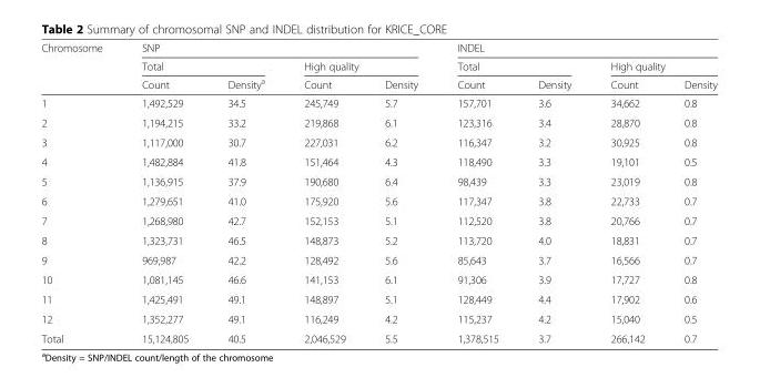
<table><thead><tr><td rowspan="3">Chromosome</td><td colspan="4">SNP</td><td colspan="4">INDEL</td></tr><tr><td colspan="2">Total</td><td colspan="2">High quality</td><td colspan="2">Total</td><td colspan="2">High quality</td></tr><tr><td>Count</td><td>Density<sup>a</sup></td><td>Count</td><td>Density</td><td>Count</td><td>Density</td><td>Count</td><td>Density</td></tr></thead><tbody><tr><td>1</td><td>1,492,529</td><td>34.5</td><td>245,749</td><td>5.7</td><td>157,701</td><td>3.6</td><td>34,662</td><td>0.8</td></tr><tr><td>2</td><td>1,194,215</td><td>33.2</td><td>219,868</td><td>6.1</td><td>123,316</td><td>3.4</td><td>28,870</td><td>0.8</td></tr><tr><td>3</td><td>1,117,000</td><td>30.7</td><td>227,031</td><td>6.2</td><td>116,347</td><td>3.2</td><td>30,925</td><td>0.8</td></tr><tr><td>4</td><td>1,482,884</td><td>41.8</td><td>151,464</td><td>4.3</td><td>118,490</td><td>3.3</td><td>19,101</td><td>0.5</td></tr><tr><td>5</td><td>1,136,915</td><td>37.9</td><td>190,680</td><td>6.4</td><td>98,439</td><td>3.3</td><td>23,019</td><td>0.8</td></tr><tr><td>6</td><td>1,279,651</td><td>41.0</td><td>175,920</td><td>5.6</td><td>117,347</td><td>3.8</td><td>22,733</td><td>0.7</td></tr><tr><td>7</td><td>1,268,980</td><td>42.7</td><td>152,153</td><td>5.1</td><td>112,520</td><td>3.8</td><td>20,766</td><td>0.7</td></tr><tr><td>8</td><td>1,323,731</td><td>46.5</td><td>148,873</td><td>5.2</td><td>113,720</td><td>4.0</td><td>18,831</td><td>0.7</td></tr><tr><td>9</td><td>969,987</td><td>42.2</td><td>128,492</td><td>5.6</td><td>85,643</td><td>3.7</td><td>16,566</td><td>0.7</td></tr><tr><td>10</td><td>1,081,145</td><td>46.6</td><td>141,153</td><td>6.1</td><td>91,306</td><td>3.9</td><td>17,727</td><td>0.8</td></tr><tr><td>11</td><td>1,425,491</td><td>49.1</td><td>148,897</td><td>5.1</td><td>128,449</td><td>4.4</td><td>17,902</td><td>0.6</td></tr><tr><td>12</td><td>1,352,277</td><td>49.1</td><td>116,249</td><td>4.2</td><td>115,237</td><td>4.2</td><td>15,040</td><td>0.5</td></tr><tr><td>Total</td><td>15,124,805</td><td>40.5</td><td>2,046,529</td><td>5.5</td><td>1,378,515</td><td>3.7</td><td>266,142</td><td>0.7</td></tr></tbody></table>